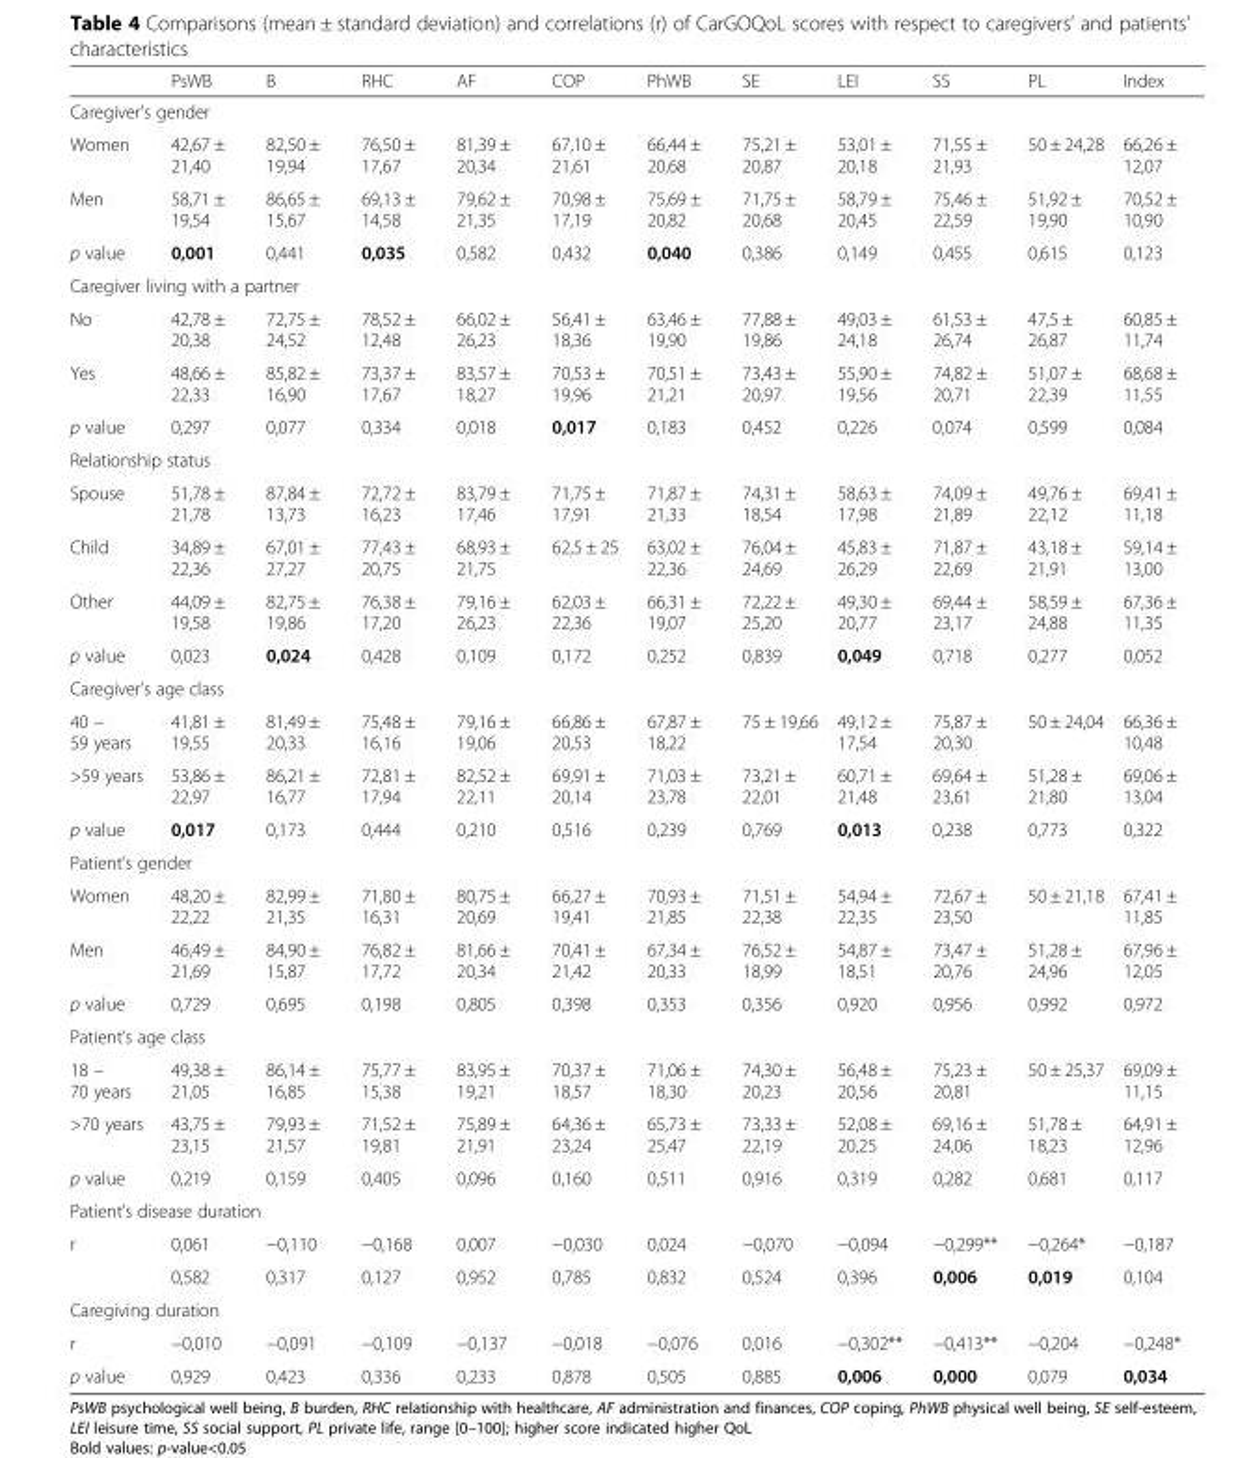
<table><thead><tr><td></td><td>PsWB</td><td>B</td><td>RHC</td><td>AF</td><td>COP</td><td>PhWB</td><td>SE</td><td>LEI</td><td>SS</td><td>PL</td><td>Index</td></tr></thead><tbody><tr><td colspan="12">Caregiver’s gender</td></tr><tr><td>Women</td><td>42,67 ± 21,40</td><td>82,50 ± 19,94</td><td>76,50 ± 17,67</td><td>81,39 ± 20,34</td><td>67,10 ± 21,61</td><td>66,44 ± 20,68</td><td>75,21 ± 20,87</td><td>53,01 ± 20,18</td><td>71,55 ± 21,93</td><td>50 ± 24,28</td><td>66,26 ± 12,07</td></tr><tr><td>Men</td><td>58,71 ± 19,54</td><td>86,65 ± 15,67</td><td>69,13 ± 14,58</td><td>79,62 ± 21,35</td><td>70,98 ± 17,19</td><td>75,69 ± 20,82</td><td>71,75 ± 20,68</td><td>58,79 ± 20,45</td><td>75,46 ± 22,59</td><td>51,92 ± 19,90</td><td>70,52 ± 10,90</td></tr><tr><td>p value</td><td>0,001</td><td>0,441</td><td>0,035</td><td>0,582</td><td>0,432</td><td>0,040</td><td>0,386</td><td>0,149</td><td>0,455</td><td>0,615</td><td>0,123</td></tr><tr><td colspan="12">Caregiver living with a partner</td></tr><tr><td>No</td><td>42,78 ± 20,38</td><td>72,75 ± 24,52</td><td>78,52 ± 12,48</td><td>66,02 ± 26,23</td><td>56,41 ± 18,36</td><td>63,46 ± 19,90</td><td>77,88 ± 19,86</td><td>49,03 ± 24,18</td><td>61,53 ± 26,74</td><td>47,5 ± 26,87</td><td>60,85 ± 11,74</td></tr><tr><td>Yes</td><td>48,66 ± 22,33</td><td>85,82 ± 16,90</td><td>73,37 ± 17,67</td><td>83,57 ± 18,27</td><td>70,53 ± 19,96</td><td>70,51 ± 21,21</td><td>73,43 ± 20,97</td><td>55,90 ± 19,56</td><td>74,82 ± 20,71</td><td>51,07 ± 22,39</td><td>68,68 ± 11,55</td></tr><tr><td>p value</td><td>0,297</td><td>0,077</td><td>0,334</td><td>0,018</td><td>0,017</td><td>0,183</td><td>0,452</td><td>0,226</td><td>0,074</td><td>0,599</td><td>0,084</td></tr><tr><td colspan="12">Relationship status</td></tr><tr><td>Spouse</td><td>51,78 ± 21,78</td><td>87,84 ± 13,73</td><td>72,72 ± 16,23</td><td>83,79 ± 17,46</td><td>71,75 ± 17,91</td><td>71,87 ± 21,33</td><td>74,31 ± 18,54</td><td>58,63 ± 17,98</td><td>74,09 ± 21,89</td><td>49,76 ± 22,12</td><td>69,41 ± 11,18</td></tr><tr><td>Child</td><td>34,89 ± 22,36</td><td>67,01 ± 27,27</td><td>77,43 ± 20,75</td><td>68,93 ± 21,75</td><td>62,5 ± 25</td><td>63,02 ± 22,36</td><td>76,04 ± 24,69</td><td>45,83 ± 26,29</td><td>71,87 ± 22,69</td><td>43,18 ± 21,91</td><td>59,14 ± 13,00</td></tr><tr><td>Other</td><td>44,09 ± 19,58</td><td>82,75 ± 19,86</td><td>76,38 ± 17,20</td><td>79,16 ± 26,23</td><td>62,03 ± 22,36</td><td>66,31 ± 19,07</td><td>72,22 ± 25,20</td><td>49,30 ± 20,77</td><td>69,44 ± 23,17</td><td>58,59 ± 24,88</td><td>67,36 ± 11,35</td></tr><tr><td>p value</td><td>0,023</td><td>0,024</td><td>0,428</td><td>0,109</td><td>0,172</td><td>0,252</td><td>0,839</td><td>0,049</td><td>0,718</td><td>0,277</td><td>0,052</td></tr><tr><td colspan="12">Caregiver’s age class</td></tr><tr><td>40 – 59 years</td><td>41,81 ± 19,55</td><td>81,49 ± 20,33</td><td>75,48 ± 16,16</td><td>79,16 ± 19,06</td><td>66,86 ± 20,53</td><td>67,87 ± 18,22</td><td>75 ± 19,66</td><td>49,12 ± 17,54</td><td>75,87 ± 20,30</td><td>50 ± 24,04</td><td>66,36 ± 10,48</td></tr><tr><td>&gt;59 years</td><td>53,86 ± 22,97</td><td>86,21 ± 16,77</td><td>72,81 ± 17,94</td><td>82,52 ± 22,11</td><td>69,91 ± 20,14</td><td>71,03 ± 23,78</td><td>73,21 ± 22,01</td><td>60,71 ± 21,48</td><td>69,64 ± 23,61</td><td>51,28 ± 21,80</td><td>69,06 ± 13,04</td></tr><tr><td>p value</td><td>0,017</td><td>0,173</td><td>0,444</td><td>0,210</td><td>0,516</td><td>0,239</td><td>0,769</td><td>0,013</td><td>0,238</td><td>0,773</td><td>0,322</td></tr><tr><td colspan="12">Patient’s gender</td></tr><tr><td>Women</td><td>48,20 ± 22,22</td><td>82,99 ± 21,35</td><td>71,80 ± 16,31</td><td>80,75 ± 20,69</td><td>66,27 ± 19,41</td><td>70,93 ± 21,85</td><td>71,51 ± 22,38</td><td>54,94 ± 22,35</td><td>72,67 ± 23,50</td><td>50 ± 21,18</td><td>67,41 ± 11,85</td></tr><tr><td>Men</td><td>46,49 ± 21,69</td><td>84,90 ± 15,87</td><td>76,82 ± 17,72</td><td>81,66 ± 20,34</td><td>70,41 ± 21,42</td><td>67,34 ± 20,33</td><td>76,52 ± 18,99</td><td>54,87 ± 18,51</td><td>73,47 ± 20,76</td><td>51,28 ± 24,96</td><td>67,96 ± 12,05</td></tr><tr><td>p value</td><td>0,729</td><td>0,695</td><td>0,198</td><td>0,805</td><td>0,398</td><td>0,353</td><td>0,356</td><td>0,920</td><td>0,956</td><td>0,992</td><td>0,972</td></tr><tr><td colspan="12">Patient’s age class</td></tr><tr><td>18 – 70 years</td><td>49,38 ± 21,05</td><td>86,14 ± 16,85</td><td>75,77 ± 15,38</td><td>83,95 ± 19,21</td><td>70,37 ± 18,57</td><td>71,06 ± 18,30</td><td>74,30 ± 20,23</td><td>56,48 ± 20,56</td><td>75,23 ± 20,81</td><td>50 ± 25,37</td><td>69,09 ± 11,15</td></tr><tr><td>&gt;70 years</td><td>43,75 ± 23,15</td><td>79,93 ± 21,57</td><td>71,52 ± 19,81</td><td>75,89 ± 21,91</td><td>64,36 ± 23,24</td><td>65,73 ± 25,47</td><td>73,33 ± 22,19</td><td>52,08 ± 20,25</td><td>69,16 ± 24,06</td><td>51,78 ± 18,23</td><td>64,91 ± 12,96</td></tr><tr><td>p value</td><td>0,219</td><td>0,159</td><td>0,405</td><td>0,096</td><td>0,160</td><td>0,511</td><td>0,916</td><td>0,319</td><td>0,282</td><td>0,681</td><td>0,117</td></tr><tr><td colspan="12">Patient’s disease duration</td></tr><tr><td rowspan="2">r</td><td>0,061</td><td>−0,110</td><td>−0,168</td><td>0,007</td><td>−0,030</td><td>0,024</td><td>−0,070</td><td>−0,094</td><td>−0,299**</td><td>−0,264*</td><td>−0,187</td></tr><tr><td>0,582</td><td>0,317</td><td>0,127</td><td>0,952</td><td>0,785</td><td>0,832</td><td>0,524</td><td>0,396</td><td>0,006</td><td>0,019</td><td>0,104</td></tr><tr><td colspan="12">Caregiving duration</td></tr><tr><td>r</td><td>−0,010</td><td>−0,091</td><td>−0,109</td><td>−0,137</td><td>−0,018</td><td>−0,076</td><td>0,016</td><td>−0,302**</td><td>−0,413**</td><td>−0,204</td><td>−0,248*</td></tr><tr><td>p value</td><td>0,929</td><td>0,423</td><td>0,336</td><td>0,233</td><td>0,878</td><td>0,505</td><td>0,885</td><td>0,006</td><td>0,000</td><td>0,079</td><td>0,034</td></tr></tbody></table>